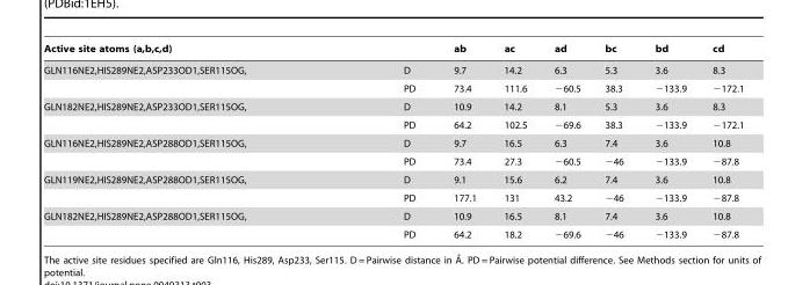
<table><thead><tr><td>Active site atoms (a,b,c,d)</td><td></td><td>ab</td><td>ac</td><td>ad</td><td>bc</td><td>bd</td><td>cd</td></tr></thead><tbody><tr><td rowspan="2">GLN116NE2,HIS289NE2,ASP233OD1,SER115OG,</td><td>D</td><td>9.7</td><td>14.2</td><td>6.3</td><td>5.3</td><td>3.6</td><td>8.3</td></tr><tr><td>PD</td><td>73.4</td><td>111.6</td><td>−60.5</td><td>38.3</td><td>−133.9</td><td>−172.1</td></tr><tr><td rowspan="2">GLN182NE2,HIS289NE2,ASP233OD1,SER115OG,</td><td>D</td><td>10.9</td><td>14.2</td><td>8.1</td><td>5.3</td><td>3.6</td><td>8.3</td></tr><tr><td>PD</td><td>64.2</td><td>102.5</td><td>−69.6</td><td>38.3</td><td>−133.9</td><td>−172.1</td></tr><tr><td rowspan="2">GLN116NE2,HIS289NE2,ASP288OD1,SER115OG,</td><td>D</td><td>9.7</td><td>16.5</td><td>6.3</td><td>7.4</td><td>3.6</td><td>10.8</td></tr><tr><td>PD</td><td>73.4</td><td>27.3</td><td>−60.5</td><td>−46</td><td>−133.9</td><td>−87.8</td></tr><tr><td rowspan="2">GLN119NE2,HIS289NE2,ASP288OD1,SER115OG,</td><td>D</td><td>9.1</td><td>15.6</td><td>6.2</td><td>7.4</td><td>3.6</td><td>10.8</td></tr><tr><td>PD</td><td>177.1</td><td>131</td><td>43.2</td><td>−46</td><td>−133.9</td><td>−87.8</td></tr><tr><td rowspan="2">GLN182NE2,HIS289NE2,ASP288OD1,SER115OG,</td><td>D</td><td>10.9</td><td>16.5</td><td>8.1</td><td>7.4</td><td>3.6</td><td>10.8</td></tr><tr><td>PD</td><td>64.2</td><td>18.2</td><td>−69.6</td><td>−46</td><td>−133.9</td><td>−87.8</td></tr></tbody></table>